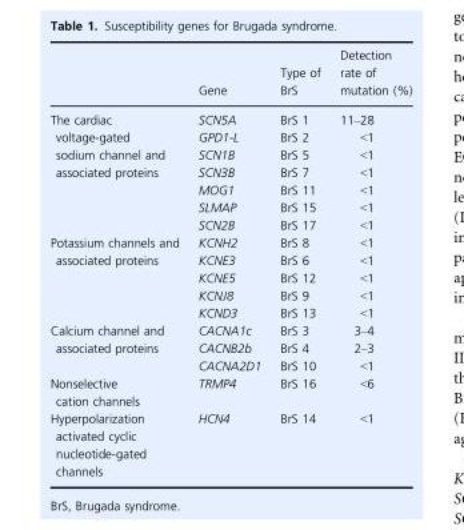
<table><thead><tr><td></td><td>Gene</td><td>Type of BrS</td><td>Detection rate of mutation (%)</td></tr></thead><tbody><tr><td rowspan="7">The cardiac voltage-gated sodium channel and associated proteins</td><td>SCN5A</td><td>BrS 1</td><td>11–28</td></tr><tr><td>GPD1-L</td><td>BrS 2</td><td>&lt;1</td></tr><tr><td>SCN1B</td><td>BrS 5</td><td>&lt;1</td></tr><tr><td>SCN3B</td><td>BrS 7</td><td>&lt;1</td></tr><tr><td>MOG1</td><td>BrS 11</td><td>&lt;1</td></tr><tr><td>SLMAP</td><td>BrS 15</td><td>&lt;1</td></tr><tr><td>SCN2B</td><td>BrS 17</td><td>&lt;1</td></tr><tr><td rowspan="5">Potassium channels and associated proteins</td><td>KCNH2</td><td>BrS 8</td><td>&lt;1</td></tr><tr><td>KCNE3</td><td>BrS 6</td><td>&lt;1</td></tr><tr><td>KCNE5</td><td>BrS 12</td><td>&lt;1</td></tr><tr><td>KCNJ8</td><td>BrS 9</td><td>&lt;1</td></tr><tr><td>KCND3</td><td>BrS 13</td><td>&lt;1</td></tr><tr><td rowspan="3">Calcium channel and associated proteins</td><td>CACNA1c</td><td>BrS 3</td><td>3–4</td></tr><tr><td>CACNB2b</td><td>BrS 4</td><td>2–3</td></tr><tr><td>CACNA2D1</td><td>BrS 10</td><td>&lt;1</td></tr><tr><td>Nonselective cation channels</td><td>TRMP4</td><td>BrS 16</td><td>&lt;6</td></tr><tr><td>Hyperpolarization activated cyclic nucleotide-gated channels</td><td>HCN4</td><td>BrS 14</td><td>&lt;1</td></tr></tbody></table>